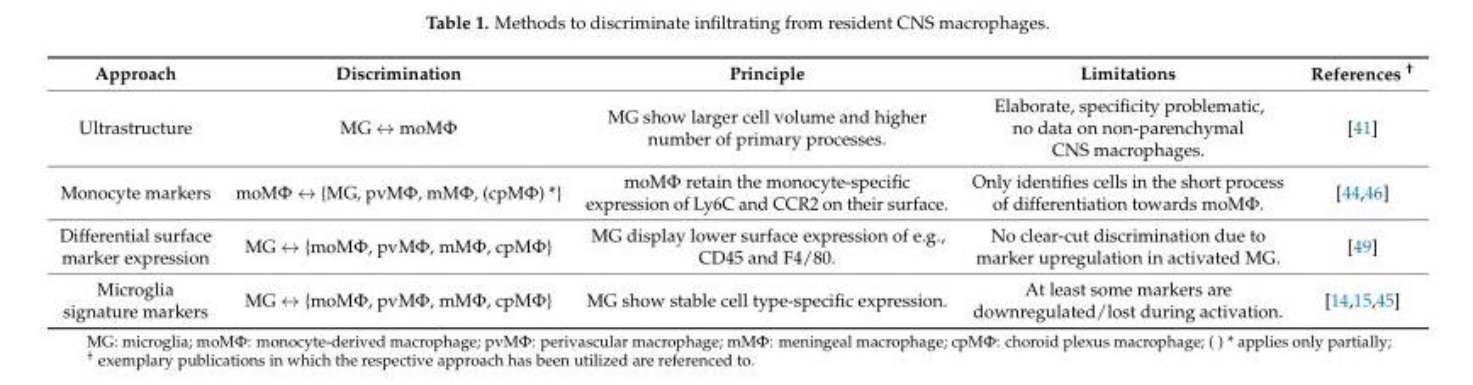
<table><thead><tr><td>Approach</td><td>Discrimination</td><td>Principle</td><td>Limitations</td><td>References <sup>†</sup></td></tr></thead><tbody><tr><td>Ultrastructure</td><td>MG ↔ moMΦ</td><td>MG show larger cell volume and higher number of primary processes.</td><td>Elaborate, specificity problematic, no data on non-parenchymal CNS macrophages.</td><td>[41]</td></tr><tr><td>Monocyte markers</td><td>moMΦ ↔ {MG, pvMΦ, mMΦ, (cpMΦ) *}</td><td>moMΦ retain the monocyte-specific expression of Ly6C and CCR2 on their surface.</td><td>Only identifies cells in the short process of differentiation towards moMΦ.</td><td>[44,46]</td></tr><tr><td>Differential surface marker expression</td><td>MG ↔ {moMΦ, pvMΦ, mMΦ, cpMΦ}</td><td>MG display lower surface expression of e.g., CD45 and F4/80.</td><td>No clear-cut discrimination due to marker upregulation in activated MG.</td><td>[49]</td></tr><tr><td>Microglia signature markers</td><td>MG ↔ {moMΦ, pvMΦ, mMΦ, cpMΦ}</td><td>MG show stable cell type-specific expression.</td><td>At least some markers are downregulated/lost during activation.</td><td>[14,15,45]</td></tr></tbody></table>